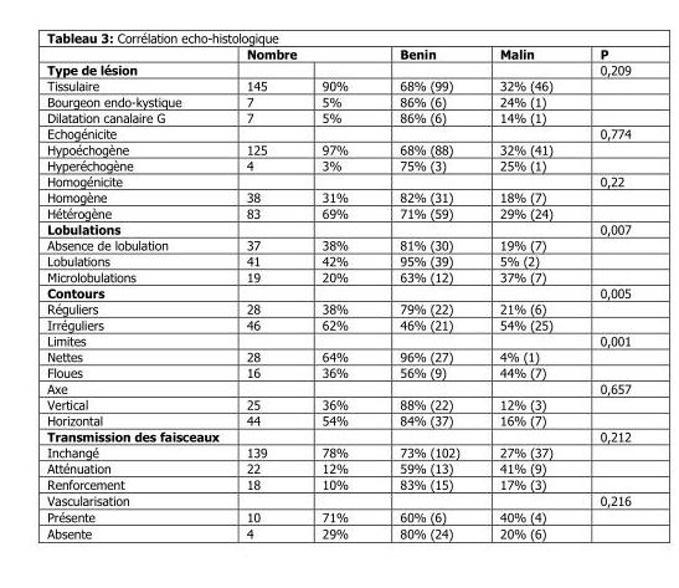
<table><thead><tr><td rowspan="2">Type de lésion</td><td colspan="2">Nombre</td><td rowspan="2">Benin</td><td rowspan="2">Malin</td><td rowspan="2">P 0,209</td></tr><tr><td></td><td></td></tr></thead><tbody><tr><td>Tissulaire</td><td>145</td><td>90%</td><td>68% (99)</td><td>32% (46)</td><td></td></tr><tr><td>Bourgeon endo-kystique</td><td>7</td><td>5%</td><td>86% (6)</td><td>24% (1)</td><td></td></tr><tr><td>Dilatation canalaire G</td><td>7</td><td>5%</td><td>86% (6)</td><td>14% (1)</td><td></td></tr><tr><td>Echogénicite</td><td></td><td></td><td></td><td></td><td>0,774</td></tr><tr><td>Hypoéchogène</td><td>125</td><td>97%</td><td>68% (88)</td><td>32% (41)</td><td></td></tr><tr><td>Hyperéchogène</td><td>4</td><td>3%</td><td>75% (3)</td><td>25% (1)</td><td></td></tr><tr><td>Homogénicite</td><td></td><td></td><td></td><td></td><td>0,22</td></tr><tr><td>Homogène</td><td>38</td><td>31%</td><td>82% (31)</td><td>18% (7)</td><td></td></tr><tr><td>Hétérogène</td><td>83</td><td>69%</td><td>71% (59)</td><td>29% (24)</td><td></td></tr><tr><td>Lobulations</td><td></td><td></td><td></td><td></td><td>0,007</td></tr><tr><td>Absence de lobulation</td><td>37</td><td>38%</td><td>81% (30)</td><td>19% (7)</td><td></td></tr><tr><td>Lobulations</td><td>41</td><td>42%</td><td>95% (39)</td><td>5% (2)</td><td></td></tr><tr><td>Microlobulations</td><td>19</td><td>20%</td><td>63% (12)</td><td>37% (7)</td><td></td></tr><tr><td>Contours</td><td></td><td></td><td></td><td></td><td>0,005</td></tr><tr><td>Réguliers</td><td>28</td><td>38%</td><td>79% (22)</td><td>21% (6)</td><td></td></tr><tr><td>Irréguliers</td><td>46</td><td>62%</td><td>46% (21)</td><td>54% (25)</td><td></td></tr><tr><td>Limites</td><td></td><td></td><td></td><td></td><td>0,001</td></tr><tr><td>Nettes</td><td>28</td><td>64%</td><td>96% (27)</td><td>4% (1)</td><td></td></tr><tr><td>Floues</td><td>16</td><td>36%</td><td>56% (9)</td><td>44% (7)</td><td></td></tr><tr><td>Axe</td><td></td><td></td><td></td><td></td><td>0,657</td></tr><tr><td>Vertical</td><td>25</td><td>36%</td><td>88% (22)</td><td>12% (3)</td><td></td></tr><tr><td>Horizontal</td><td>44</td><td>54%</td><td>84% (37)</td><td>16% (7)</td><td></td></tr><tr><td>Transmission des faisceaux</td><td></td><td></td><td></td><td></td><td>0,212</td></tr><tr><td>Inchangé</td><td>139</td><td>78%</td><td>73% (102)</td><td>27% (37)</td><td></td></tr><tr><td>Atténuation</td><td>22</td><td>12%</td><td>59% (13)</td><td>41% (9)</td><td></td></tr><tr><td>Renforcement</td><td>18</td><td>10%</td><td>83% (15)</td><td>17% (3)</td><td></td></tr><tr><td>Vascularisation</td><td></td><td></td><td></td><td></td><td>0,216</td></tr><tr><td>Présente</td><td>10</td><td>71%</td><td>60% (6)</td><td>40% (4)</td><td></td></tr><tr><td>Absente</td><td>4</td><td>29%</td><td>80% (24)</td><td>20% (6)</td><td></td></tr></tbody></table>